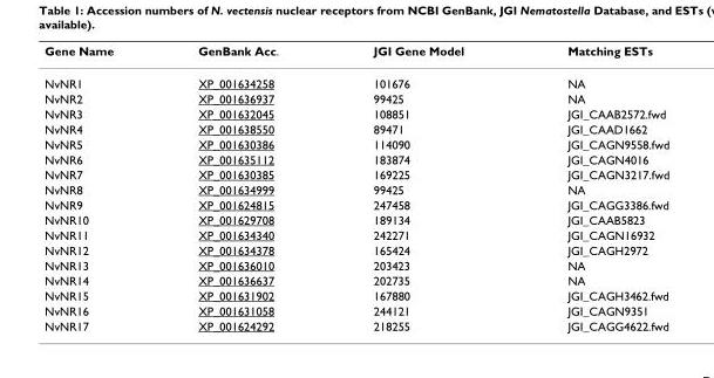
<table><thead><tr><td>Gene Name</td><td>GenBank Acc.</td><td>JGI Gene Model</td><td>Matching ESTs</td></tr></thead><tbody><tr><td>NvNR1</td><td>XP_001634258</td><td>101676</td><td>NA</td></tr><tr><td>NvNR2</td><td>XP_001636937</td><td>99425</td><td>NA</td></tr><tr><td>NvNR3</td><td>XP_001632045</td><td>108851</td><td>JGI_CAAB2572.fwd</td></tr><tr><td>NvNR4</td><td>XP_001638550</td><td>89471</td><td>JGI_CAAD1662</td></tr><tr><td>NvNR5</td><td>XP_001630386</td><td>114090</td><td>JGI_CAGN9558.fwd</td></tr><tr><td>NvNR6</td><td>XP_001635112</td><td>183874</td><td>JGI_CAGN4016</td></tr><tr><td>NvNR7</td><td>XP_001630385</td><td>169225</td><td>JGI_CAGN3217.fwd</td></tr><tr><td>NvNR8</td><td>XP_001634999</td><td>99425</td><td>NA</td></tr><tr><td>NvNR9</td><td>XP_001624815</td><td>247458</td><td>JGI_CAGG3386.fwd</td></tr><tr><td>NvNR10</td><td>XP_001629708</td><td>189134</td><td>JGI_CAAB5823</td></tr><tr><td>NvNR11</td><td>XP_001634340</td><td>242271</td><td>JGI_CAGN16932</td></tr><tr><td>NvNR12</td><td>XP_001634378</td><td>165424</td><td>JGI_CAGH2972</td></tr><tr><td>NvNR13</td><td>XP_001636010</td><td>203423</td><td>NA</td></tr><tr><td>NvNR14</td><td>XP_001636637</td><td>202735</td><td>NA</td></tr><tr><td>NvNR15</td><td>XP_001631902</td><td>167880</td><td>JGI_CAGH3462.fwd</td></tr><tr><td>NvNR16</td><td>XP_001631058</td><td>244121</td><td>JGI_CAGN9351</td></tr><tr><td>NvNR17</td><td>XP_001624292</td><td>218255</td><td>JGI_CAGG4622.fwd</td></tr></tbody></table>